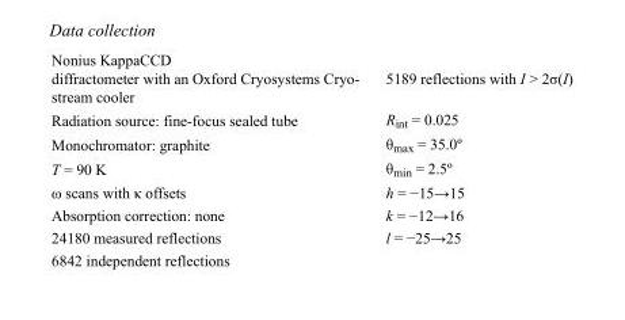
<table><tbody><tr><td>Nonius KappaCCD diffractometer with an Oxford Cryosystems Cryo- stream cooler</td><td>5189 reflections with I &gt; 2σ(I)</td></tr><tr><td>Radiation source: fine-focus sealed tube</td><td>R<sub>int</sub> = 0.025</td></tr><tr><td>Monochromator: graphite</td><td>θ<sub>max</sub> = 35.0º</td></tr><tr><td>T = 90 K</td><td>θ<sub>min</sub> = 2.5º</td></tr><tr><td>ω scans with κ offsets</td><td>h = −15→15</td></tr><tr><td>Absorption correction: none</td><td>k = −12→16</td></tr><tr><td>24180 measured reflections</td><td>l = −25→25</td></tr><tr><td>6842 independent reflections</td><td></td></tr></tbody></table>